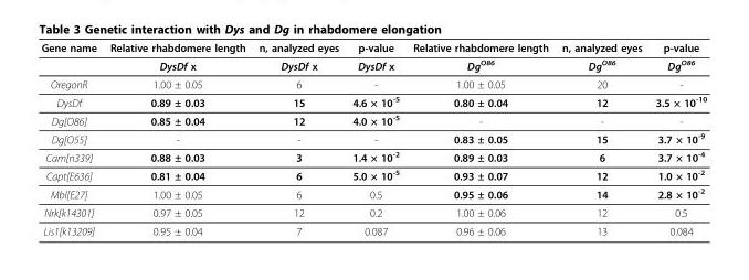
<table><thead><tr><td>Gene name</td><td>Relative rhabdomere length</td><td>n, analyzed eyes</td><td>p-value</td><td>Relative rhabdomere length</td><td>n, analyzed eyes</td><td>p-value</td></tr></thead><tbody><tr><td></td><td>DysDf x</td><td>DysDf x</td><td>DysDf x</td><td>Dg<sup>O86</sup></td><td>Dg<sup>O86</sup></td><td>Dg<sup>O86</sup></td></tr><tr><td>OregonR</td><td>1.00 ± 0.05</td><td>6</td><td>-</td><td>1.00 ± 0.05</td><td>20</td><td>-</td></tr><tr><td>DysDf</td><td>0.89 ± 0.03</td><td>15</td><td>4.6 × 10<sup>-5</sup></td><td>0.80 ± 0.04</td><td>12</td><td>3.5 × 10<sup>-10</sup></td></tr><tr><td>Dg[O86]</td><td>0.85 ± 0.04</td><td>12</td><td>4.0 × 10<sup>-5</sup></td><td>-</td><td>-</td><td>-</td></tr><tr><td>Dg[O55]</td><td>-</td><td>-</td><td>-</td><td>0.83 ± 0.05</td><td>15</td><td>3.7 × 10<sup>-9</sup></td></tr><tr><td>Cam[n339]</td><td>0.88 ± 0.03</td><td>3</td><td>1.4 × 10<sup>-2</sup></td><td>0.89 ± 0.03</td><td>6</td><td>3.7 × 10<sup>-4</sup></td></tr><tr><td>Capt[E636]</td><td>0.81 ± 0.04</td><td>6</td><td>5.0 × 10<sup>-5</sup></td><td>0.93 ± 0.07</td><td>12</td><td>1.0 × 10<sup>-2</sup></td></tr><tr><td>Mbl[E27]</td><td>1.00 ± 0.05</td><td>6</td><td>0.5</td><td>0.95 ± 0.06</td><td>14</td><td>2.8 × 10<sup>-2</sup></td></tr><tr><td>Nrk[k14301]</td><td>0.97 ± 0.05</td><td>12</td><td>0.2</td><td>1.00 ± 0.06</td><td>12</td><td>0.5</td></tr><tr><td>Lis1[k13209]</td><td>0.95 ± 0.04</td><td>7</td><td>0.087</td><td>0.96 ± 0.06</td><td>13</td><td>0.084</td></tr></tbody></table>